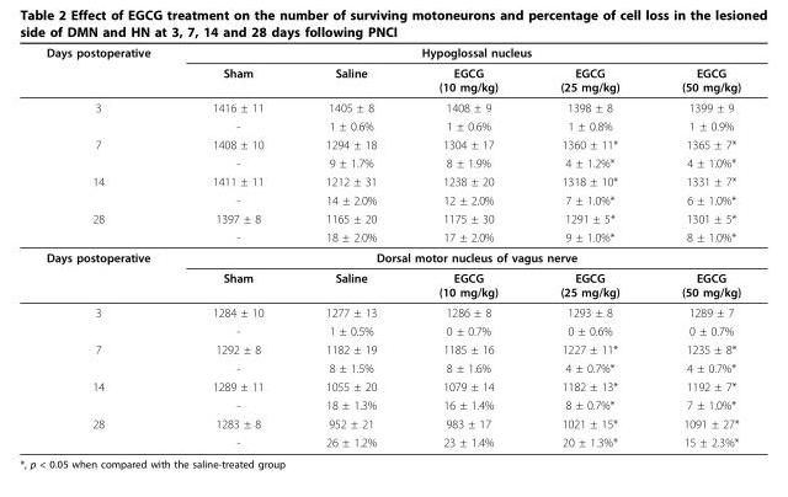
<table><thead><tr><td rowspan="2">Days postoperative</td><td colspan="5">Hypoglossal nucleus</td></tr><tr><td>Sham</td><td>Saline</td><td>EGCG (10 mg/kg)</td><td>EGCG (25 mg/kg)</td><td>EGCG (50 mg/kg)</td></tr></thead><tbody><tr><td rowspan="2">3</td><td>1416 ± 11</td><td>1405 ± 8</td><td>1408 ± 9</td><td>1398 ± 8</td><td>1399 ± 9</td></tr><tr><td>-</td><td>1 ± 0.6%</td><td>1 ± 0.6%</td><td>1 ± 0.8%</td><td>1 ± 0.9%</td></tr><tr><td rowspan="2">7</td><td>1408 ± 10</td><td>1294 ± 18</td><td>1304 ± 17</td><td>1360 ± 11*</td><td>1365 ± 7*</td></tr><tr><td>-</td><td>9 ± 1.7%</td><td>8 ± 1.9%</td><td>4 ± 1.2%*</td><td>4 ± 1.0%*</td></tr><tr><td rowspan="2">14</td><td>1411 ± 11</td><td>1212 ± 31</td><td>1238 ± 20</td><td>1318 ± 10*</td><td>1331 ± 7*</td></tr><tr><td>-</td><td>14 ± 2.0%</td><td>12 ± 2.0%</td><td>7 ± 1.0%*</td><td>6 ± 1.0%*</td></tr><tr><td rowspan="2">28</td><td>1397 ± 8</td><td>1165 ± 20</td><td>1175 ± 30</td><td>1291 ± 5*</td><td>1301 ± 5*</td></tr><tr><td>-</td><td>18 ± 2.0%</td><td>17 ± 2.0%</td><td>9 ± 1.0%*</td><td>8 ± 1.0%*</td></tr><tr><td rowspan="2">Days postoperative</td><td colspan="5">Dorsal motor nucleus of vagus nerve</td></tr><tr><td>Sham</td><td>Saline</td><td>EGCG (10 mg/kg)</td><td>EGCG (25 mg/kg)</td><td>EGCG (50 mg/kg)</td></tr><tr><td rowspan="2">3</td><td>1284 ± 10</td><td>1277 ± 13</td><td>1286 ± 8</td><td>1293 ± 8</td><td>1289 ± 7</td></tr><tr><td>-</td><td>1 ± 0.5%</td><td>0 ± 0.7%</td><td>0 ± 0.6%</td><td>0 ± 0.7%</td></tr><tr><td rowspan="2">7</td><td>1292 ± 8</td><td>1182 ± 19</td><td>1185 ± 16</td><td>1227 ± 11*</td><td>1235 ± 8*</td></tr><tr><td>-</td><td>8 ± 1.5%</td><td>8 ± 1.6%</td><td>4 ± 0.7%*</td><td>4 ± 0.7%*</td></tr><tr><td rowspan="2">14</td><td>1289 ± 11</td><td>1055 ± 20</td><td>1079 ± 14</td><td>1182 ± 13*</td><td>1192 ± 7*</td></tr><tr><td>-</td><td>18 ± 1.3%</td><td>16 ± 1.4%</td><td>8 ± 0.7%*</td><td>7 ± 1.0%*</td></tr><tr><td rowspan="2">28</td><td>1283 ± 8</td><td>952 ± 21</td><td>983 ± 17</td><td>1021 ± 15*</td><td>1091 ± 27*</td></tr><tr><td>-</td><td>26 ± 1.2%</td><td>23 ± 1.4%</td><td>20 ± 1.3%*</td><td>15 ± 2.3%*</td></tr></tbody></table>